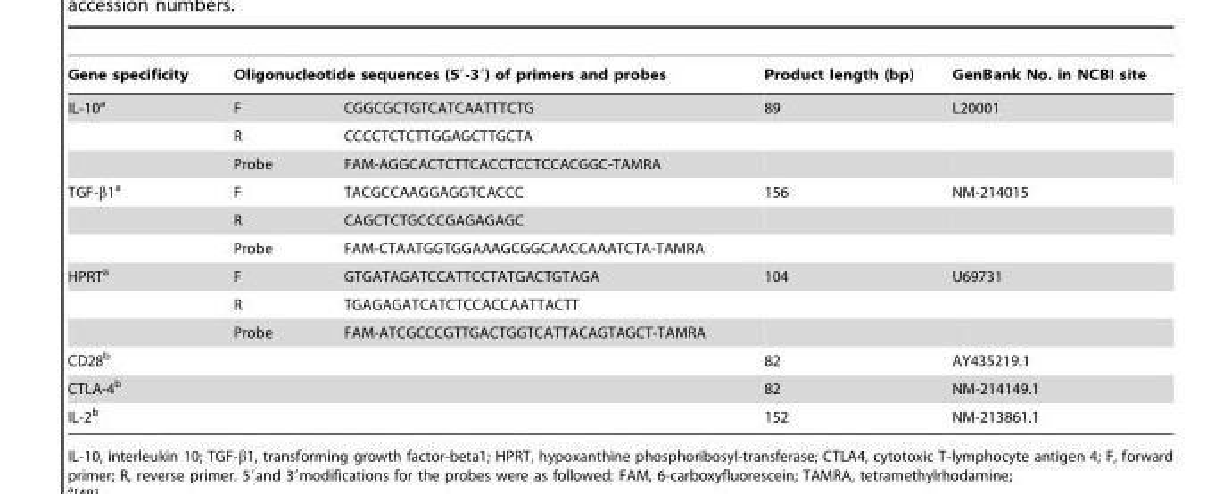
<table><thead><tr><td rowspan="2">Gene specificity IL-10<sup>a</sup></td><td colspan="2">Oligonucleotide sequences (5′-3′) of primers and probes</td><td rowspan="2">Product length (bp) 89</td><td rowspan="2">GenBank No. in NCBI site L20001</td></tr><tr><td>F</td><td>CGGCGCTGTCATCAATTTCTG</td></tr></thead><tbody><tr><td></td><td>R</td><td>CCCCTCTCTTGGAGCTTGCTA</td><td></td><td></td></tr><tr><td></td><td>Probe</td><td>FAM-AGGCACTCTTCACCTCCTCCACGGC-TAMRA</td><td></td><td></td></tr><tr><td rowspan="3">TGF-β1<sup>a</sup></td><td>F</td><td>TACGCCAAGGAGGTCACCC</td><td>156</td><td>NM-214015</td></tr><tr><td>R</td><td>CAGCTCTGCCCGAGAGAGC</td><td></td><td></td></tr><tr><td>Probe</td><td>FAM-CTAATGGTGGAAAGCGGCAACCAAATCTA-TAMRA</td><td></td><td></td></tr><tr><td rowspan="3">HPRT<sup>a</sup></td><td>F</td><td>GTGATAGATCCATTCCTATGACTGTAGA</td><td>104</td><td>U69731</td></tr><tr><td>R</td><td>TGAGAGATCATCTCCACCAATTACTT</td><td></td><td></td></tr><tr><td>Probe</td><td>FAM-ATCGCCCGTTGACTGGTCATTACAGTAGCT-TAMRA</td><td></td><td></td></tr><tr><td>CD28<sup>b</sup></td><td></td><td></td><td>82</td><td>AY435219.1</td></tr><tr><td>CTLA-4<sup>b</sup></td><td></td><td></td><td>82</td><td>NM-214149.1</td></tr><tr><td>IL-2<sup>b</sup></td><td></td><td></td><td>152</td><td>NM-213861.1</td></tr></tbody></table>